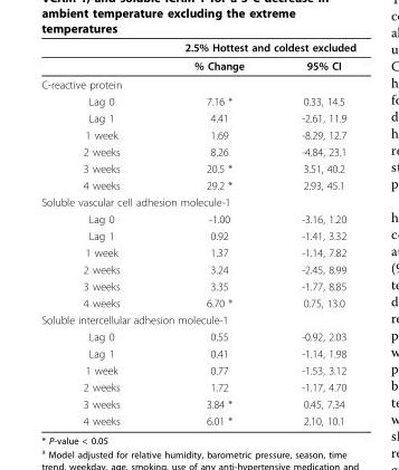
<table><thead><tr><td rowspan="2"></td><td colspan="2">2.5% Hottest and coldest excluded</td></tr><tr><td>% Change</td><td>95% CI</td></tr></thead><tbody><tr><td colspan="3">C-reactive protein</td></tr><tr><td>Lag 0</td><td>7.16 *</td><td>0.33, 14.5</td></tr><tr><td>Lag 1</td><td>4.41</td><td>-2.61, 11.9</td></tr><tr><td>1 week</td><td>1.69</td><td>-8.29, 12.7</td></tr><tr><td>2 weeks</td><td>8.26</td><td>-4.84, 23.1</td></tr><tr><td>3 weeks</td><td>20.5 *</td><td>3.51, 40.2</td></tr><tr><td>4 weeks</td><td>29.2 *</td><td>2.93, 45.1</td></tr><tr><td colspan="3">Soluble vascular cell adhesion molecule-1</td></tr><tr><td>Lag 0</td><td>-1.00</td><td>-3.16, 1.20</td></tr><tr><td>Lag 1</td><td>0.92</td><td>-1.41, 3.32</td></tr><tr><td>1 week</td><td>1.37</td><td>-1.14, 7.82</td></tr><tr><td>2 weeks</td><td>3.24</td><td>-2.45, 8.99</td></tr><tr><td>3 weeks</td><td>3.35</td><td>-1.77, 8.85</td></tr><tr><td>4 weeks</td><td>6.70 *</td><td>0.75, 13.0</td></tr><tr><td colspan="3">Soluble intercellular adhesion molecule-1</td></tr><tr><td>Lag 0</td><td>0.55</td><td>-0.92, 2.03</td></tr><tr><td>Lag 1</td><td>0.41</td><td>-1.14, 1.98</td></tr><tr><td>1 week</td><td>0.77</td><td>-1.53, 3.12</td></tr><tr><td>2 weeks</td><td>1.72</td><td>-1.17, 4.70</td></tr><tr><td>3 weeks</td><td>3.84 *</td><td>0.45, 7.34</td></tr><tr><td>4 weeks</td><td>6.01 *</td><td>2.10, 10.1</td></tr></tbody></table>